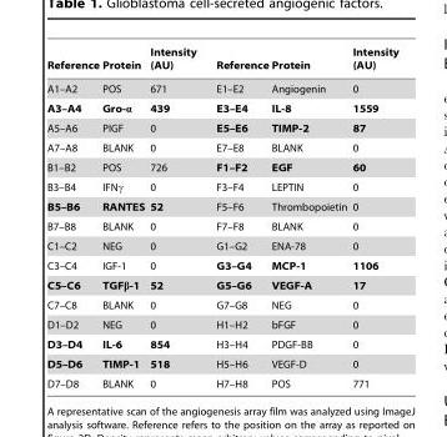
<table><thead><tr><td>Reference</td><td>Protein</td><td>Intensity (AU)</td><td>Reference</td><td>Protein</td><td>Intensity (AU)</td></tr></thead><tbody><tr><td>A1–A2</td><td>POS</td><td>671</td><td>E1–E2</td><td>Angiogenin</td><td>0</td></tr><tr><td>A3–A4</td><td>Gro-α</td><td>439</td><td>E3–E4</td><td>IL-8</td><td>1559</td></tr><tr><td>A5–A6</td><td>PIGF</td><td>0</td><td>E5–E6</td><td>TIMP-2</td><td>87</td></tr><tr><td>A7–A8</td><td>BLANK</td><td>0</td><td>E7–E8</td><td>BLANK</td><td>0</td></tr><tr><td>B1–B2</td><td>POS</td><td>726</td><td>F1–F2</td><td>EGF</td><td>60</td></tr><tr><td>B3–B4</td><td>IFNγ</td><td>0</td><td>F3–F4</td><td>LEPTIN</td><td>0</td></tr><tr><td>B5–B6</td><td>RANTES</td><td>52</td><td>F5–F6</td><td>Thrombopoietin</td><td>0</td></tr><tr><td>B7–B8</td><td>BLANK</td><td>0</td><td>F7–F8</td><td>BLANK</td><td>0</td></tr><tr><td>C1–C2</td><td>NEG</td><td>0</td><td>G1–G2</td><td>ENA-78</td><td>0</td></tr><tr><td>C3–C4</td><td>IGF-1</td><td>0</td><td>G3–G4</td><td>MCP-1</td><td>1106</td></tr><tr><td>C5–C6</td><td>TGFβ-1</td><td>52</td><td>G5–G6</td><td>VEGF-A</td><td>17</td></tr><tr><td>C7–C8</td><td>BLANK</td><td>0</td><td>G7–G8</td><td>NEG</td><td>0</td></tr><tr><td>D1–D2</td><td>NEG</td><td>0</td><td>H1–H2</td><td>bFGF</td><td>0</td></tr><tr><td>D3–D4</td><td>IL-6</td><td>854</td><td>H3–H4</td><td>PDGF-BB</td><td>0</td></tr><tr><td>D5–D6</td><td>TIMP-1</td><td>518</td><td>H5–H6</td><td>VEGF-D</td><td>0</td></tr><tr><td>D7–D8</td><td>BLANK</td><td>0</td><td>H7–H8</td><td>POS</td><td>771</td></tr></tbody></table>